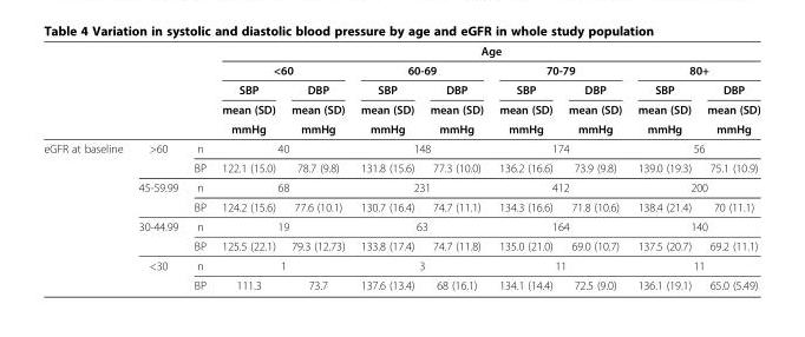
<table><thead><tr><td rowspan="5"></td><td rowspan="5"></td><td rowspan="5"></td><td colspan="8">Age</td></tr><tr><td colspan="2">&lt;60</td><td colspan="2">60-69</td><td colspan="2">70-79</td><td colspan="2">80+</td></tr><tr><td rowspan="3">SBP mean (SD) mmHg</td><td rowspan="3">DBP mean (SD) mmHg</td><td rowspan="3">SBP mean (SD) mmHg</td><td rowspan="3">DBP mean (SD) mmHg</td><td rowspan="3">SBP mean (SD) mmHg</td><td rowspan="3">DBP mean (SD) mmHg</td><td rowspan="3">SBP mean (SD) mmHg</td><td rowspan="3">DBP mean (SD) mmHg</td></tr><tr></tr><tr></tr></thead><tbody><tr><td rowspan="8">eGFR at baseline</td><td>&gt;60</td><td>n</td><td colspan="2">40</td><td colspan="2">148</td><td colspan="2">174</td><td colspan="2">56</td></tr><tr><td></td><td>BP</td><td>122.1 (15.0)</td><td>78.7 (9.8)</td><td>131.8 (15.6)</td><td>77.3 (10.0)</td><td>136.2 (16.6)</td><td>73.9 (9.8)</td><td>139.0 (19.3)</td><td>75.1 (10.9)</td></tr><tr><td>45-59.99</td><td>n</td><td colspan="2">68</td><td colspan="2">231</td><td colspan="2">412</td><td colspan="2">200</td></tr><tr><td></td><td>BP</td><td>124.2 (15.6)</td><td>77.6 (10.1)</td><td>130.7 (16.4)</td><td>74.7 (11.1)</td><td>134.3 (16.6)</td><td>71.8 (10.6)</td><td>138.4 (21.4)</td><td>70 (11.1)</td></tr><tr><td>30-44.99</td><td>n</td><td colspan="2">19</td><td colspan="2">63</td><td colspan="2">164</td><td colspan="2">140</td></tr><tr><td></td><td>BP</td><td>125.5 (22.1)</td><td>79.3 (12.73)</td><td>133.8 (17.4)</td><td>74.7 (11.8)</td><td>135.0 (21.0)</td><td>69.0 (10.7)</td><td>137.5 (20.7)</td><td>69.2 (11.1)</td></tr><tr><td>&lt;30</td><td>n</td><td colspan="2">1</td><td colspan="2">3</td><td colspan="2">11</td><td colspan="2">11</td></tr><tr><td></td><td>BP</td><td>111.3</td><td>73.7</td><td>137.6 (13.4)</td><td>68 (16.1)</td><td>134.1 (14.4)</td><td>72.5 (9.0)</td><td>136.1 (19.1)</td><td>65.0 (5.49)</td></tr></tbody></table>